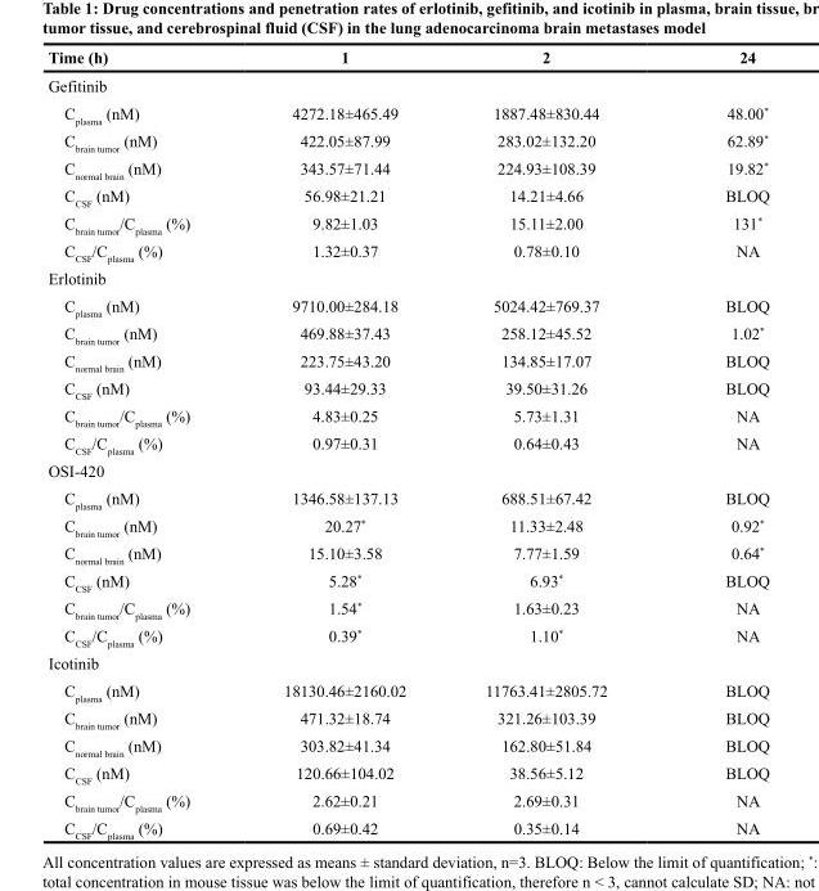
<table><thead><tr><td>Time (h)</td><td>1</td><td>2</td><td>24</td></tr></thead><tbody><tr><td colspan="4">Gefitinib</td></tr><tr><td>C<sub>plasma</sub> (nM)</td><td>4272.18±465.49</td><td>1887.48±830.44</td><td>48.00*</td></tr><tr><td>C<sub>brain tumor</sub> (nM)</td><td>422.05±87.99</td><td>283.02±132.20</td><td>62.89*</td></tr><tr><td>C<sub>normal brain</sub> (nM)</td><td>343.57±71.44</td><td>224.93±108.39</td><td>19.82*</td></tr><tr><td>C<sub>CSF</sub> (nM)</td><td>56.98±21.21</td><td>14.21±4.66</td><td>BLOQ</td></tr><tr><td>C<sub>brain tumor</sub>/C<sub>plasma</sub> (%)</td><td>9.82±1.03</td><td>15.11±2.00</td><td>131*</td></tr><tr><td>C<sub>CSF</sub>/C<sub>plasma</sub> (%)</td><td>1.32±0.37</td><td>0.78±0.10</td><td>NA</td></tr><tr><td colspan="4">Erlotinib</td></tr><tr><td>C<sub>plasma</sub> (nM)</td><td>9710.00±284.18</td><td>5024.42±769.37</td><td>BLOQ</td></tr><tr><td>C<sub>brain tumor</sub> (nM)</td><td>469.88±37.43</td><td>258.12±45.52</td><td>1.02*</td></tr><tr><td>C<sub>normal brain</sub> (nM)</td><td>223.75±43.20</td><td>134.85±17.07</td><td>BLOQ</td></tr><tr><td>C<sub>CSF</sub> (nM)</td><td>93.44±29.33</td><td>39.50±31.26</td><td>BLOQ</td></tr><tr><td>C<sub>brain tumor</sub>/C<sub>plasma</sub> (%)</td><td>4.83±0.25</td><td>5.73±1.31</td><td>NA</td></tr><tr><td>C<sub>CSF</sub>/C<sub>plasma</sub> (%)</td><td>0.97±0.31</td><td>0.64±0.43</td><td>NA</td></tr><tr><td colspan="4">OSI-420</td></tr><tr><td>C<sub>plasma</sub> (nM)</td><td>1346.58±137.13</td><td>688.51±67.42</td><td>BLOQ</td></tr><tr><td>C<sub>brain tumor</sub> (nM)</td><td>20.27*</td><td>11.33±2.48</td><td>0.92*</td></tr><tr><td>C<sub>normal brain</sub> (nM)</td><td>15.10±3.58</td><td>7.77±1.59</td><td>0.64*</td></tr><tr><td>C<sub>CSF</sub> (nM)</td><td>5.28*</td><td>6.93*</td><td>BLOQ</td></tr><tr><td>C<sub>brain tumor</sub>/C<sub>plasma</sub> (%)</td><td>1.54*</td><td>1.63±0.23</td><td>NA</td></tr><tr><td>C<sub>CSF</sub>/C<sub>plasma</sub> (%)</td><td>0.39*</td><td>1.10*</td><td>NA</td></tr><tr><td colspan="4">Icotinib</td></tr><tr><td>C<sub>plasma</sub> (nM)</td><td>18130.46±2160.02</td><td>11763.41±2805.72</td><td>BLOQ</td></tr><tr><td>C<sub>brain tumor</sub> (nM)</td><td>471.32±18.74</td><td>321.26±103.39</td><td>BLOQ</td></tr><tr><td>C<sub>normal brain</sub> (nM)</td><td>303.82±41.34</td><td>162.80±51.84</td><td>BLOQ</td></tr><tr><td>C<sub>CSF</sub> (nM)</td><td>120.66±104.02</td><td>38.56±5.12</td><td>BLOQ</td></tr><tr><td>C<sub>brain tumor</sub>/C<sub>plasma</sub> (%)</td><td>2.62±0.21</td><td>2.69±0.31</td><td>NA</td></tr><tr><td>C<sub>CSF</sub>/C<sub>plasma</sub> (%)</td><td>0.69±0.42</td><td>0.35±0.14</td><td>NA</td></tr></tbody></table>